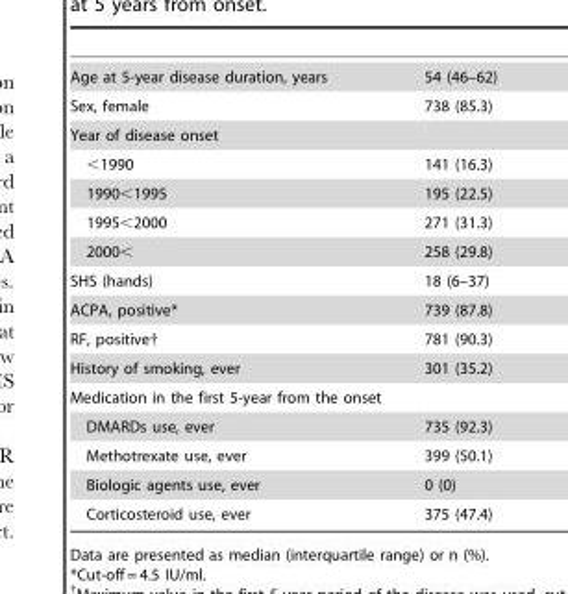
<table><tbody><tr><td>Age at 5-year disease duration, years</td><td>54 (46–62)</td></tr><tr><td>Sex, female</td><td>738 (85.3)</td></tr><tr><td colspan="2">Year of disease onset</td></tr><tr><td>&lt;1990</td><td>141 (16.3)</td></tr><tr><td>1990&lt;1995</td><td>195 (22.5)</td></tr><tr><td>1995&lt;2000</td><td>271 (31.3)</td></tr><tr><td>2000&lt;</td><td>258 (29.8)</td></tr><tr><td>SHS (hands)</td><td>18 (6–37)</td></tr><tr><td>ACPA, positive*</td><td>739 (87.8)</td></tr><tr><td>RF, positive†</td><td>781 (90.3)</td></tr><tr><td>History of smoking, ever</td><td>301 (35.2)</td></tr><tr><td colspan="2">Medication in the first 5-year from the onset</td></tr><tr><td>DMARDs use, ever</td><td>735 (92.3)</td></tr><tr><td>Methotrexate use, ever</td><td>399 (50.1)</td></tr><tr><td>Biologic agents use, ever</td><td>0 (0)</td></tr><tr><td>Corticosteroid use, ever</td><td>375 (47.4)</td></tr></tbody></table>